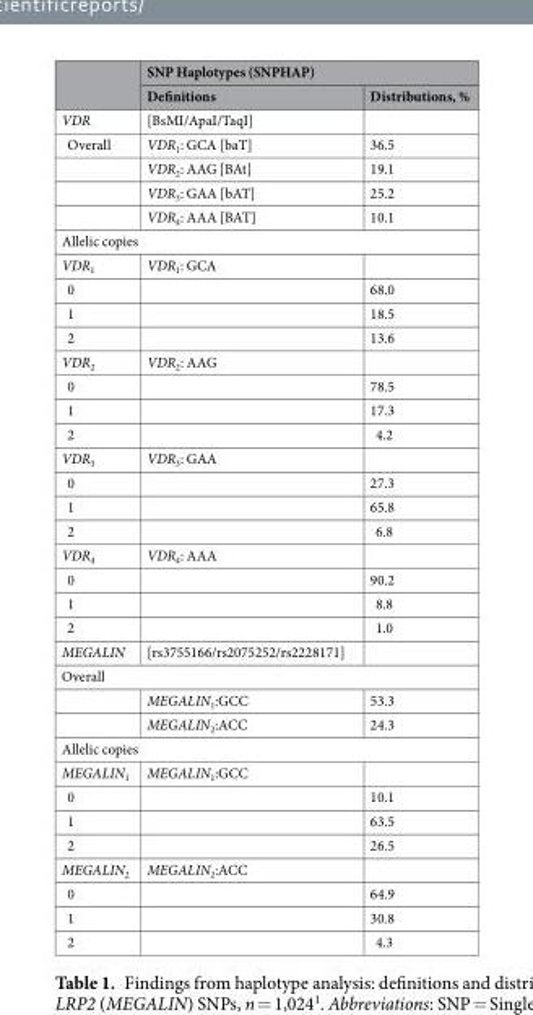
<table><thead><tr><td rowspan="2"></td><td colspan="2">SNP Haplotypes (SNPHAP)</td></tr><tr><td>Definitions</td><td>Distributions, %</td></tr></thead><tbody><tr><td>VDR</td><td>[BsMI/ApaI/TaqI]</td><td></td></tr><tr><td rowspan="4">Overall</td><td>VDR<sub>1</sub>: GCA [baT]</td><td>36.5</td></tr><tr><td>VDR<sub>2</sub>: AAG [BAt]</td><td>19.1</td></tr><tr><td>VDR<sub>3</sub>: GAA [bAT]</td><td>25.2</td></tr><tr><td>VDR<sub>4</sub>: AAA [BAT]</td><td>10.1</td></tr><tr><td colspan="3">Allelic copies</td></tr><tr><td>VDR<sub>1</sub></td><td>VDR<sub>1</sub>: GCA</td><td></td></tr><tr><td>0</td><td></td><td>68.0</td></tr><tr><td>1</td><td></td><td>18.5</td></tr><tr><td>2</td><td></td><td>13.6</td></tr><tr><td>VDR<sub>2</sub></td><td>VDR<sub>2</sub>: AAG</td><td></td></tr><tr><td>0</td><td></td><td>78.5</td></tr><tr><td>1</td><td></td><td>17.3</td></tr><tr><td>2</td><td></td><td>4.2</td></tr><tr><td>VDR<sub>3</sub></td><td>VDR<sub>3</sub>: GAA</td><td></td></tr><tr><td>0</td><td></td><td>27.3</td></tr><tr><td>1</td><td></td><td>65.8</td></tr><tr><td>2</td><td></td><td>6.8</td></tr><tr><td>VDR<sub>4</sub></td><td>VDR<sub>4</sub>: AAA</td><td></td></tr><tr><td>0</td><td></td><td>90.2</td></tr><tr><td>1</td><td></td><td>8.8</td></tr><tr><td>2</td><td></td><td>1.0</td></tr><tr><td>MEGALIN</td><td>[rs3755166/rs2075252/rs2228171]</td><td></td></tr><tr><td colspan="3">Overall</td></tr><tr><td></td><td>MEGALIN<sub>1</sub>:GCC</td><td>53.3</td></tr><tr><td></td><td>MEGALIN<sub>2</sub>:ACC</td><td>24.3</td></tr><tr><td colspan="3">Allelic copies</td></tr><tr><td>MEGALIN<sub>1</sub></td><td>MEGALIN<sub>1</sub>:GCC</td><td></td></tr><tr><td>0</td><td></td><td>10.1</td></tr><tr><td>1</td><td></td><td>63.5</td></tr><tr><td>2</td><td></td><td>26.5</td></tr><tr><td>MEGALIN<sub>2</sub></td><td>MEGALIN<sub>2</sub>:ACC</td><td></td></tr><tr><td>0</td><td></td><td>64.9</td></tr><tr><td>1</td><td></td><td>30.8</td></tr><tr><td>2</td><td></td><td>4.3</td></tr></tbody></table>